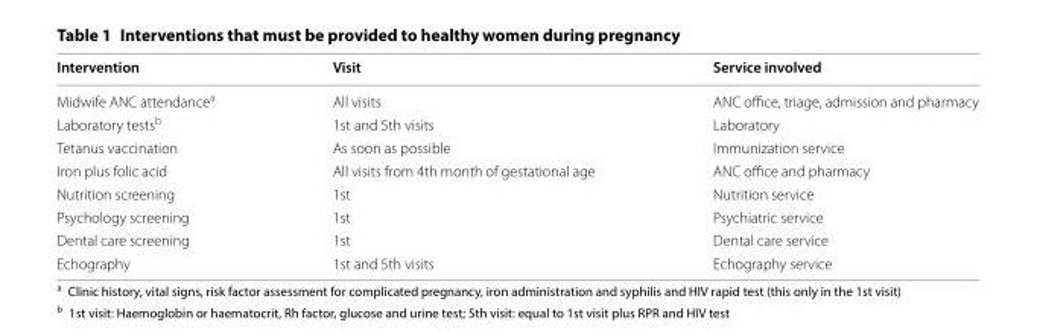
<table><thead><tr><td>Intervention</td><td>Visit</td><td>Service involved</td></tr></thead><tbody><tr><td>Midwife ANC attendance<sup>a</sup></td><td>All visits</td><td>ANC office, triage, admission and pharmacy</td></tr><tr><td>Laboratory tests<sup>b</sup></td><td>1st and 5th visits</td><td>Laboratory</td></tr><tr><td>Tetanus vaccination</td><td>As soon as possible</td><td>Immunization service</td></tr><tr><td>Iron plus folic acid</td><td>All visits from 4th month of gestational age</td><td>ANC office and pharmacy</td></tr><tr><td>Nutrition screening</td><td>1st</td><td>Nutrition service</td></tr><tr><td>Psychology screening</td><td>1st</td><td>Psychiatric service</td></tr><tr><td>Dental care screening</td><td>1st</td><td>Dental care service</td></tr><tr><td>Echography</td><td>1st and 5th visits</td><td>Echography service</td></tr></tbody></table>